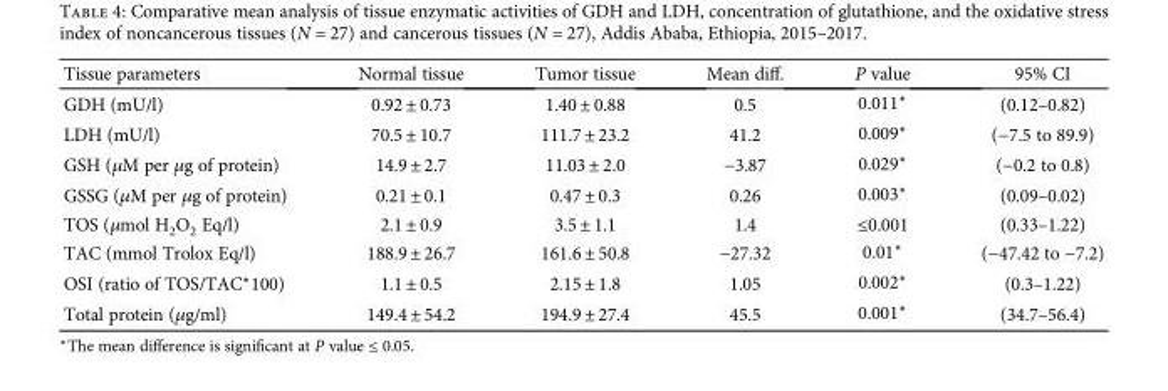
<table><thead><tr><td>Tissue parameters</td><td>Normal tissue</td><td>Tumor tissue</td><td>Mean diff.</td><td>P value</td><td>95% CI</td></tr></thead><tbody><tr><td>GDH (mU/l)</td><td>0.92 ± 0.73</td><td>1.40 ± 0.88</td><td>0.5</td><td>0.011∗</td><td>(0.12–0.82)</td></tr><tr><td>LDH (mU/l)</td><td>70.5 ± 10.7</td><td>111.7 ± 23.2</td><td>41.2</td><td>0.009∗</td><td>(−7.5 to 89.9)</td></tr><tr><td>GSH (μM per μg of protein)</td><td>14.9 ± 2.7</td><td>11.03 ± 2.0</td><td>−3.87</td><td>0.029∗</td><td>(−0.2 to 0.8)</td></tr><tr><td>GSSG (μM per μg of protein)</td><td>0.21 ± 0.1</td><td>0.47 ± 0.3</td><td>0.26</td><td>0.003∗</td><td>(0.09–0.02)</td></tr><tr><td>TOS (μmol H<sub>2</sub>O<sub>2</sub> Eq/l)</td><td>2.1 ± 0.9</td><td>3.5 ± 1.1</td><td>1.4</td><td>≤0.001</td><td>(0.33–1.22)</td></tr><tr><td>TAC (mmol Trolox Eq/l)</td><td>188.9 ± 26.7</td><td>161.6 ± 50.8</td><td>−27.32</td><td>0.01∗</td><td>(−47.42 to −7.2)</td></tr><tr><td>OSI (ratio of TOS/TAC∗100)</td><td>1.1 ± 0.5</td><td>2.15 ± 1.8</td><td>1.05</td><td>0.002∗</td><td>(0.3–1.22)</td></tr><tr><td>Total protein (μg/ml)</td><td>149.4 ± 54.2</td><td>194.9 ± 27.4</td><td>45.5</td><td>0.001∗</td><td>(34.7–56.4)</td></tr></tbody></table>